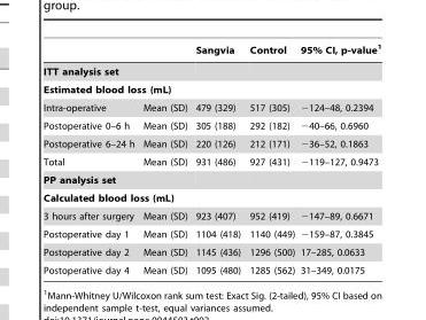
<table><thead><tr><td></td><td></td><td>Sangvia</td><td>Control</td><td>95% CI, p-value<sup>1</sup></td></tr></thead><tbody><tr><td colspan="5">ITT analysis set</td></tr><tr><td colspan="5">Estimated blood loss (mL)</td></tr><tr><td>Intra-operative</td><td>Mean (SD)</td><td>479 (329)</td><td>517 (305)</td><td>−124–48, 0.2394</td></tr><tr><td>Postoperative 0–6 h</td><td>Mean (SD)</td><td>305 (188)</td><td>292 (182)</td><td>−40–66, 0.6960</td></tr><tr><td>Postoperative 6–24 h</td><td>Mean (SD)</td><td>220 (126)</td><td>212 (171)</td><td>−36–52, 0.1863</td></tr><tr><td>Total</td><td>Mean (SD)</td><td>931 (486)</td><td>927 (431)</td><td>−119–127, 0.9473</td></tr><tr><td colspan="5">PP analysis set</td></tr><tr><td colspan="5">Calculated blood loss (mL)</td></tr><tr><td>3 hours after surgery</td><td>Mean (SD)</td><td>923 (407)</td><td>952 (419)</td><td>−147–89, 0.6671</td></tr><tr><td>Postoperative day 1</td><td>Mean (SD)</td><td>1104 (418)</td><td>1140 (449)</td><td>−159–87, 0.3845</td></tr><tr><td>Postoperative day 2</td><td>Mean (SD)</td><td>1145 (436)</td><td>1296 (500)</td><td>17–285, 0.0633</td></tr><tr><td>Postoperative day 4</td><td>Mean (SD)</td><td>1095 (480)</td><td>1285 (562)</td><td>31–349, 0.0175</td></tr></tbody></table>